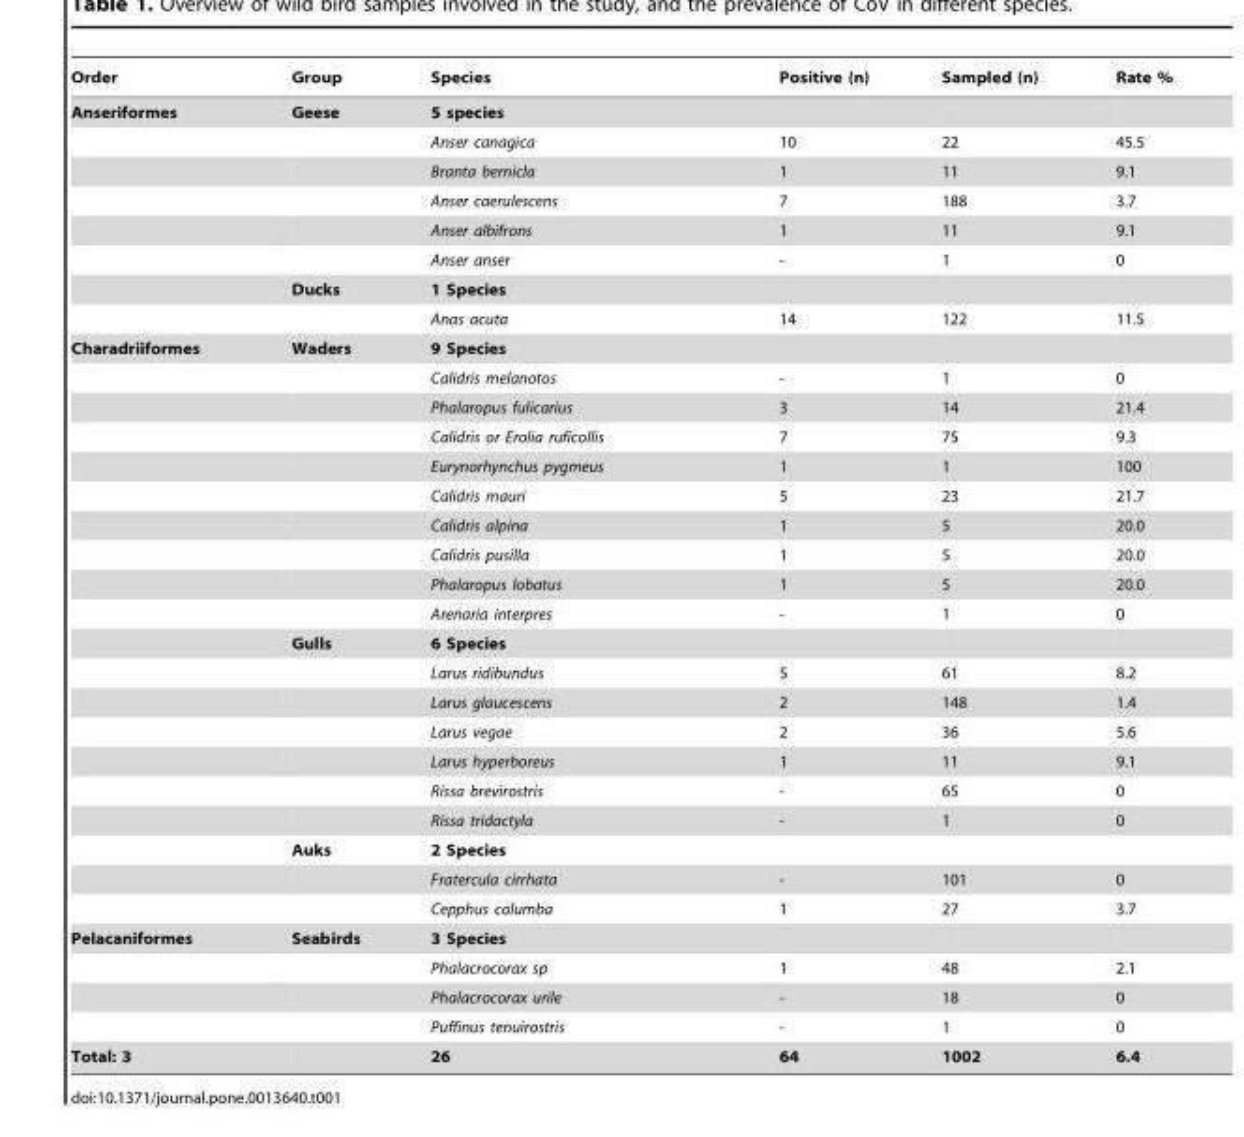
<table><thead><tr><td>Order</td><td>Group</td><td>Species</td><td>Positive (n)</td><td>Sampled (n)</td><td>Rate %</td></tr></thead><tbody><tr><td rowspan="8">Anseriformes</td><td>Geese</td><td>5 species</td><td></td><td></td><td></td></tr><tr><td></td><td>Anser canagica</td><td>10</td><td>22</td><td>45.5</td></tr><tr><td></td><td>Branta bernicla</td><td>1</td><td>11</td><td>9.1</td></tr><tr><td></td><td>Anser caerulescens</td><td>7</td><td>188</td><td>3.7</td></tr><tr><td></td><td>Anser albifrons</td><td>1</td><td>11</td><td>9.1</td></tr><tr><td></td><td>Anser anser</td><td>-</td><td>1</td><td>0</td></tr><tr><td>Ducks</td><td>1 Species</td><td></td><td></td><td></td></tr><tr><td></td><td>Anas acuta</td><td>14</td><td>122</td><td>11.5</td></tr><tr><td rowspan="20">Charadriiformes</td><td>Waders</td><td>9 Species</td><td></td><td></td><td></td></tr><tr><td></td><td>Calidris melanotos</td><td>-</td><td>1</td><td>0</td></tr><tr><td></td><td>Phalaropus fulicarius</td><td>3</td><td>14</td><td>21.4</td></tr><tr><td></td><td>Calidris or Erolia ruficollis</td><td>7</td><td>75</td><td>9.3</td></tr><tr><td></td><td>Eurynorhynchus pygmeus</td><td>1</td><td>1</td><td>100</td></tr><tr><td></td><td>Calidris mauri</td><td>5</td><td>23</td><td>21.7</td></tr><tr><td></td><td>Calidris alpina</td><td>1</td><td>5</td><td>20.0</td></tr><tr><td></td><td>Calidris pusilla</td><td>1</td><td>5</td><td>20.0</td></tr><tr><td></td><td>Phalaropus lobatus</td><td>1</td><td>5</td><td>20.0</td></tr><tr><td></td><td>Arenaria interpres</td><td>-</td><td>1</td><td>0</td></tr><tr><td>Gulls</td><td>6 Species</td><td></td><td></td><td></td></tr><tr><td></td><td>Larus ridibundus</td><td>5</td><td>61</td><td>8.2</td></tr><tr><td></td><td>Larus glaucescens</td><td>2</td><td>148</td><td>1.4</td></tr><tr><td></td><td>Larus vegae</td><td>2</td><td>36</td><td>5.6</td></tr><tr><td></td><td>Larus hyperboreus</td><td>1</td><td>11</td><td>9.1</td></tr><tr><td></td><td>Rissa brevirostris</td><td>-</td><td>65</td><td>0</td></tr><tr><td></td><td>Rissa tridactyla</td><td>-</td><td>1</td><td>0</td></tr><tr><td>Auks</td><td>2 Species</td><td></td><td></td><td></td></tr><tr><td></td><td>Fratercula cirrhata</td><td>-</td><td>101</td><td>0</td></tr><tr><td></td><td>Cepphus columba</td><td>1</td><td>27</td><td>3.7</td></tr><tr><td rowspan="4">Pelacaniformes</td><td>Seabirds</td><td>3 Species</td><td></td><td></td><td></td></tr><tr><td></td><td>Phalacrocorax sp</td><td>1</td><td>48</td><td>2.1</td></tr><tr><td></td><td>Phalacrocorax urile</td><td>-</td><td>18</td><td>0</td></tr><tr><td></td><td>Puffinus tenuirostris</td><td>-</td><td>1</td><td>0</td></tr><tr><td>Total: 3</td><td></td><td>26</td><td>64</td><td>1002</td><td>6.4</td></tr></tbody></table>